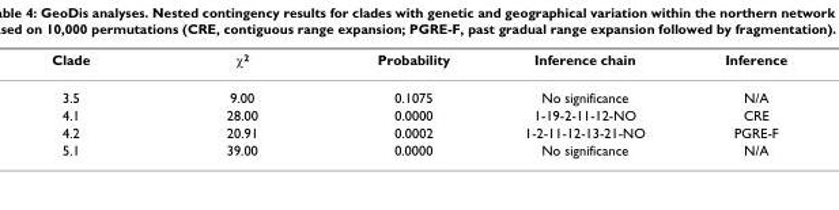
<table><thead><tr><td>Clade</td><td>χ<sup>2</sup></td><td>Probability</td><td>Inference chain</td><td>Inference</td></tr></thead><tbody><tr><td>3.5</td><td>9.00</td><td>0.1075</td><td>No significance</td><td>N/A</td></tr><tr><td>4.1</td><td>28.00</td><td>0.0000</td><td>1-19-2-11-12-NO</td><td>CRE</td></tr><tr><td>4.2</td><td>20.91</td><td>0.0002</td><td>1-2-11-12-13-21-NO</td><td>PGRE-F</td></tr><tr><td>5.1</td><td>39.00</td><td>0.0000</td><td>No significance</td><td>N/A</td></tr></tbody></table>